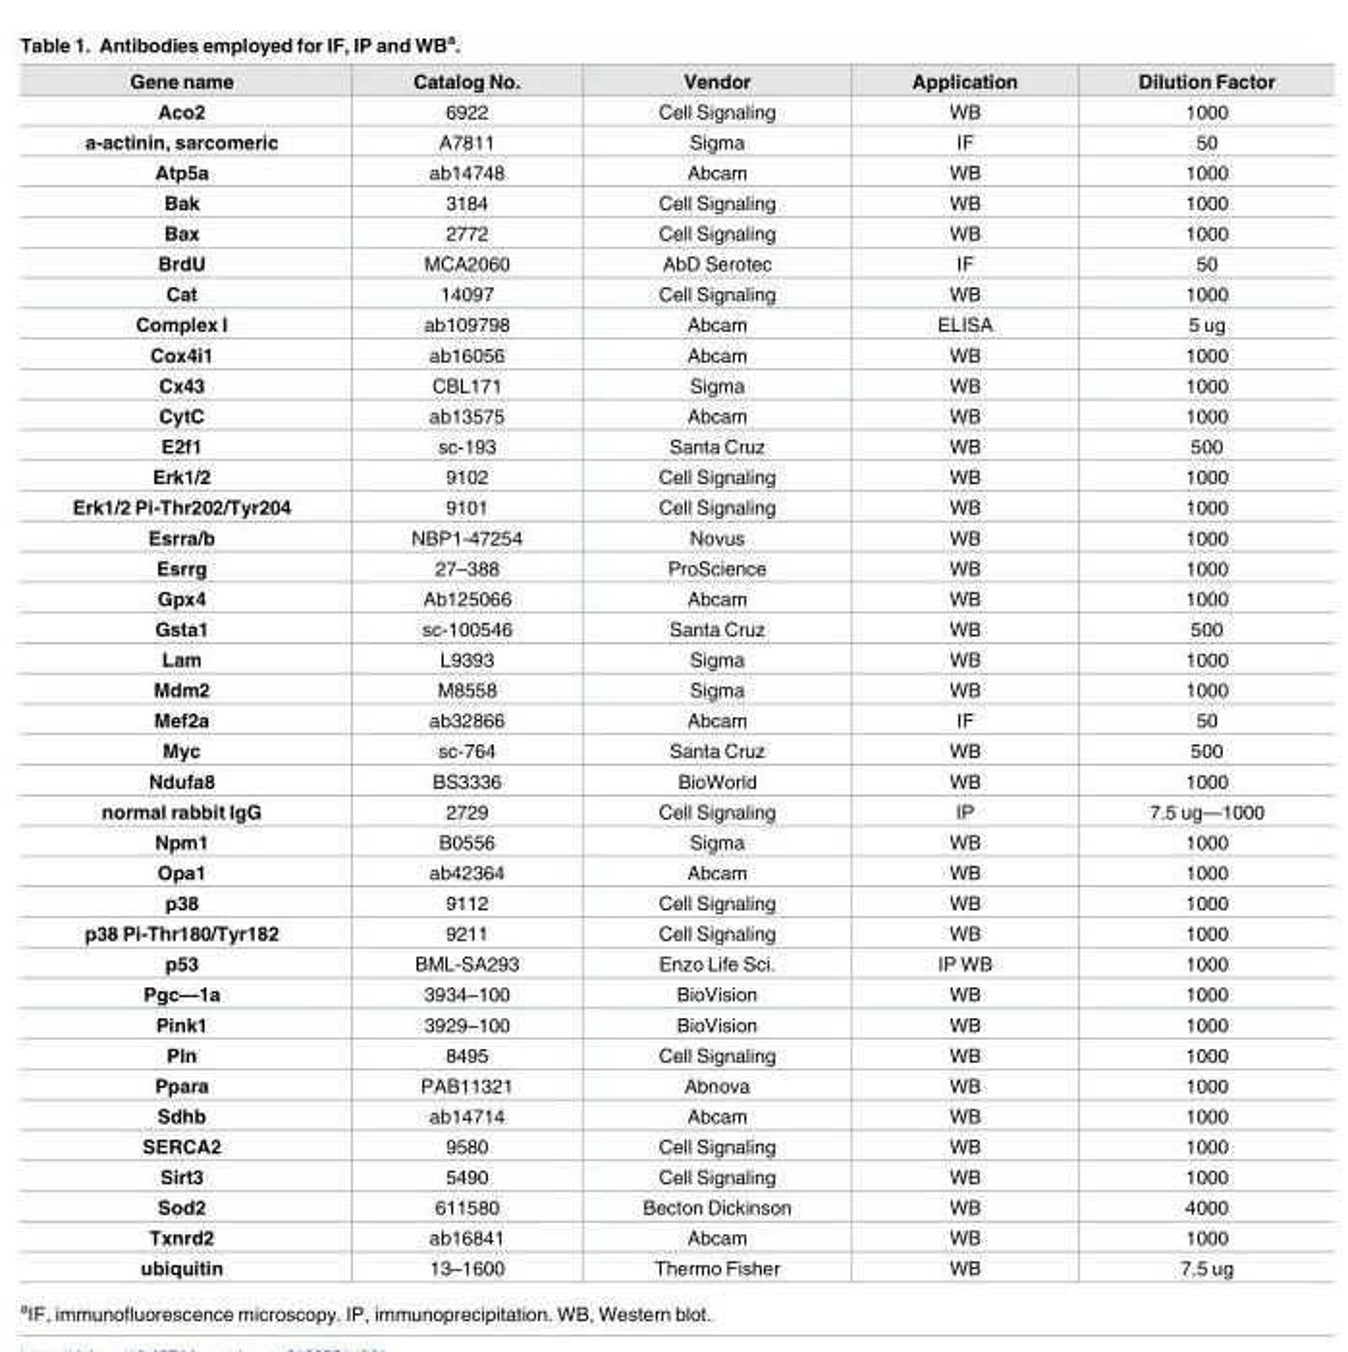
<table><thead><tr><td>Gene name</td><td>Catalog No.</td><td>Vendor</td><td>Application</td><td>Dilution Factor</td></tr></thead><tbody><tr><td>Aco2</td><td>6922</td><td>Cell Signaling</td><td>WB</td><td>1000</td></tr><tr><td>a-actinin, sarcomeric</td><td>A7811</td><td>Sigma</td><td>IF</td><td>50</td></tr><tr><td>Atp5a</td><td>ab14748</td><td>Abcam</td><td>WB</td><td>1000</td></tr><tr><td>Bak</td><td>3184</td><td>Cell Signaling</td><td>WB</td><td>1000</td></tr><tr><td>Bax</td><td>2772</td><td>Cell Signaling</td><td>WB</td><td>1000</td></tr><tr><td>BrdU</td><td>MCA2060</td><td>AbD Serotec</td><td>IF</td><td>50</td></tr><tr><td>Cat</td><td>14097</td><td>Cell Signaling</td><td>WB</td><td>1000</td></tr><tr><td>Complex I</td><td>ab109798</td><td>Abcam</td><td>ELISA</td><td>5 ug</td></tr><tr><td>Cox4i1</td><td>ab16056</td><td>Abcam</td><td>WB</td><td>1000</td></tr><tr><td>Cx43</td><td>CBL171</td><td>Sigma</td><td>WB</td><td>1000</td></tr><tr><td>CytC</td><td>ab13575</td><td>Abcam</td><td>WB</td><td>1000</td></tr><tr><td>E2f1</td><td>sc-193</td><td>Santa Cruz</td><td>WB</td><td>500</td></tr><tr><td>Erk1/2</td><td>9102</td><td>Cell Signaling</td><td>WB</td><td>1000</td></tr><tr><td>Erk1/2 Pi-Thr202/Tyr204</td><td>9101</td><td>Cell Signaling</td><td>WB</td><td>1000</td></tr><tr><td>Esrra/b</td><td>NBP1-47254</td><td>Novus</td><td>WB</td><td>1000</td></tr><tr><td>Esrrg</td><td>27–388</td><td>ProScience</td><td>WB</td><td>1000</td></tr><tr><td>Gpx4</td><td>Ab125066</td><td>Abcam</td><td>WB</td><td>1000</td></tr><tr><td>Gsta1</td><td>sc-100546</td><td>Santa Cruz</td><td>WB</td><td>500</td></tr><tr><td>Lam</td><td>L9393</td><td>Sigma</td><td>WB</td><td>1000</td></tr><tr><td>Mdm2</td><td>M8558</td><td>Sigma</td><td>WB</td><td>1000</td></tr><tr><td>Mef2a</td><td>ab32866</td><td>Abcam</td><td>IF</td><td>50</td></tr><tr><td>Myc</td><td>sc-764</td><td>Santa Cruz</td><td>WB</td><td>500</td></tr><tr><td>Ndufa8</td><td>BS3336</td><td>BioWorld</td><td>WB</td><td>1000</td></tr><tr><td>normal rabbit IgG</td><td>2729</td><td>Cell Signaling</td><td>IP</td><td>7.5 ug—1000</td></tr><tr><td>Npm1</td><td>B0556</td><td>Sigma</td><td>WB</td><td>1000</td></tr><tr><td>Opa1</td><td>ab42364</td><td>Abcam</td><td>WB</td><td>1000</td></tr><tr><td>p38</td><td>9112</td><td>Cell Signaling</td><td>WB</td><td>1000</td></tr><tr><td>p38 Pi-Thr180/Tyr182</td><td>9211</td><td>Cell Signaling</td><td>WB</td><td>1000</td></tr><tr><td>p53</td><td>BML-SA293</td><td>Enzo Life Sci.</td><td>IP WB</td><td>1000</td></tr><tr><td>Pgc—1a</td><td>3934–100</td><td>BioVision</td><td>WB</td><td>1000</td></tr><tr><td>Pink1</td><td>3929–100</td><td>BioVision</td><td>WB</td><td>1000</td></tr><tr><td>Pln</td><td>8495</td><td>Cell Signaling</td><td>WB</td><td>1000</td></tr><tr><td>Ppara</td><td>PAB11321</td><td>Abnova</td><td>WB</td><td>1000</td></tr><tr><td>Sdhb</td><td>ab14714</td><td>Abcam</td><td>WB</td><td>1000</td></tr><tr><td>SERCA2</td><td>9580</td><td>Cell Signaling</td><td>WB</td><td>1000</td></tr><tr><td>Sirt3</td><td>5490</td><td>Cell Signaling</td><td>WB</td><td>1000</td></tr><tr><td>Sod2</td><td>611580</td><td>Becton Dickinson</td><td>WB</td><td>4000</td></tr><tr><td>Txnrd2</td><td>ab16841</td><td>Abcam</td><td>WB</td><td>1000</td></tr><tr><td>ubiquitin</td><td>13–1600</td><td>Thermo Fisher</td><td>WB</td><td>7.5 ug</td></tr></tbody></table>